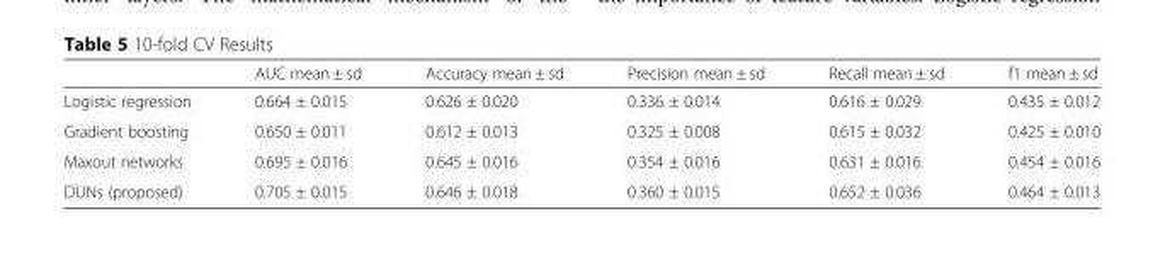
<table><thead><tr><td></td><td>AUC mean ± sd</td><td>Accuracy mean ± sd</td><td>Precision mean ± sd</td><td>Recall mean ± sd</td><td>f1 mean ± sd</td></tr></thead><tbody><tr><td>Logistic regression</td><td>0.664 ± 0.015</td><td>0.626 ± 0.020</td><td>0.336 ± 0.014</td><td>0.616 ± 0.029</td><td>0.435 ± 0.012</td></tr><tr><td>Gradient boosting</td><td>0.650 ± 0.011</td><td>0.612 ± 0.013</td><td>0.325 ± 0.008</td><td>0.615 ± 0.032</td><td>0.425 ± 0.010</td></tr><tr><td>Maxout networks</td><td>0.695 ± 0.016</td><td>0.645 ± 0.016</td><td>0.354 ± 0.016</td><td>0.631 ± 0.016</td><td>0.454 ± 0.016</td></tr><tr><td>DUNs (proposed)</td><td>0.705 ± 0.015</td><td>0.646 ± 0.018</td><td>0.360 ± 0.015</td><td>0.652 ± 0.036</td><td>0.464 ± 0.013</td></tr></tbody></table>